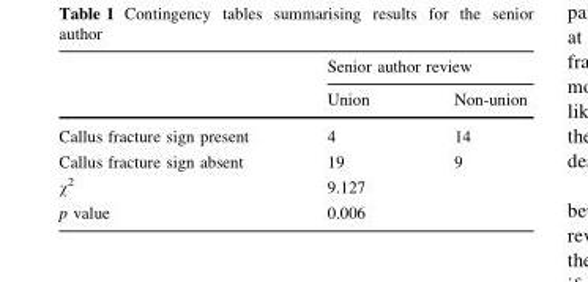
<table><thead><tr><td rowspan="2"></td><td colspan="2">Senior author review</td></tr><tr><td>Union</td><td>Non-union</td></tr></thead><tbody><tr><td>Callus fracture sign present</td><td>4</td><td>14</td></tr><tr><td>Callus fracture sign absent</td><td>19</td><td>9</td></tr><tr><td>χ<sup>2</sup></td><td>9.127</td><td></td></tr><tr><td>p value</td><td>0.006</td><td></td></tr></tbody></table>